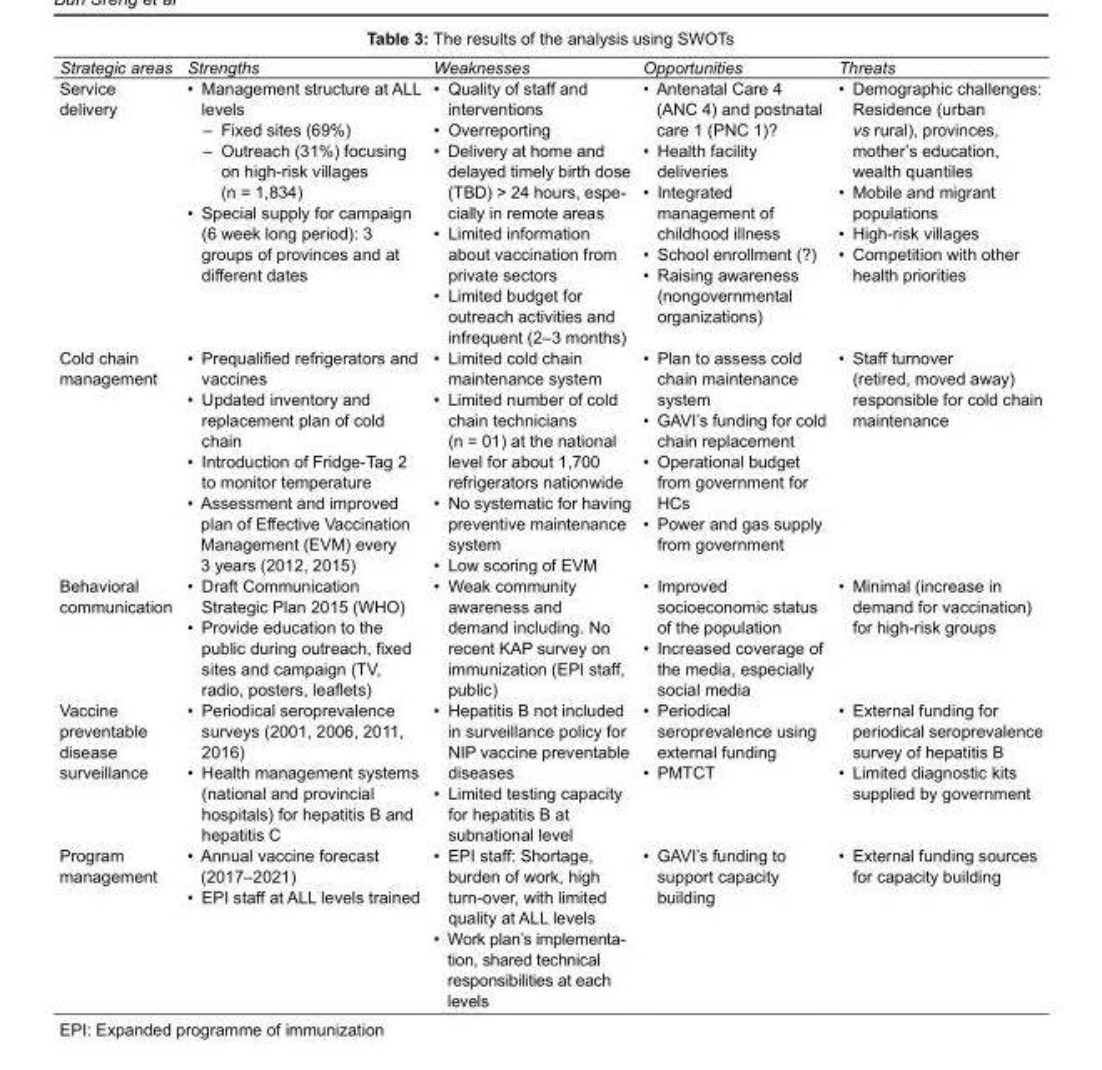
<table><tbody><tr><td>Strategic areas</td><td>Strengths</td><td>Weaknesses</td><td>Opportunities</td><td>Threats</td></tr><tr><td>Service delivery</td><td>• Management structure at ALL levels – Fixed sites (69%) – Outreach (31%) focusing on high-risk villages (n = 1,834) • Special supply for campaign (6 week long period): 3 groups of provinces and at different dates</td><td>• Quality of staff and interventions • Overreporting • Delivery at home and delayed timely birth dose (TBD) &gt; 24 hours, espe- cially in remote areas • Limited information about vaccination from private sectors • Limited budget for outreach activities and infrequent (2–3 months)</td><td>• Antenatal Care 4 (ANC 4) and postnatal care 1 (PNC 1)? • Health facility deliveries • Integrated management of childhood illness • School enrollment (?) • Raising awareness (nongovernmental organizations)</td><td>• Demographic challenges: Residence (urban vs rural), provinces, mother’s education, wealth quantiles • Mobile and migrant populations • High-risk villages • Competition with other health priorities</td></tr><tr><td>Cold chain management</td><td>• Prequalified refrigerators and vaccines • Updated inventory and replacement plan of cold chain • Introduction of Fridge-Tag 2 to monitor temperature • Assessment and improved plan of Effective Vaccination Management (EVM) every 3 years (2012, 2015)</td><td>• Limited cold chain maintenance system • Limited number of cold chain technicians (n = 01) at the national level for about 1,700 refrigerators nationwide • No systematic for having preventive maintenance system • Low scoring of EVM</td><td>• Plan to assess cold chain maintenance system • GAVI’s funding for cold chain replacement • Operational budget from government for HCs • Power and gas supply from government</td><td>• Staff turnover (retired, moved away) responsible for cold chain maintenance</td></tr><tr><td>Behavioral communication</td><td>• Draft Communication Strategic Plan 2015 (WHO) • Provide education to the public during outreach, fixed sites and campaign (TV, radio, posters, leaflets)</td><td>• Weak community awareness and demand including. No recent KAP survey on immunization (EPI staff, public)</td><td>• Improved socioeconomic status of the population • Increased coverage of the media, especially social media</td><td>• Minimal (increase in demand for vaccination) for high-risk groups</td></tr><tr><td>Vaccine preventable disease surveillance</td><td>• Periodical seroprevalence surveys (2001, 2006, 2011, 2016) • Health management systems (national and provincial hospitals) for hepatitis B and hepatitis C</td><td>• Hepatitis B not included in surveillance policy for NIP vaccine preventable diseases • Limited testing capacity for hepatitis B at subnational level</td><td>• Periodical seroprevalence using external funding • PMTCT</td><td>• External funding for periodical seroprevalence survey of hepatitis B • Limited diagnostic kits supplied by government</td></tr><tr><td>Program management</td><td>• Annual vaccine forecast (2017–2021) • EPI staff at ALL levels trained</td><td>• EPI staff: Shortage, burden of work, high turn-over, with limited quality at ALL levels • Work plan’s implementa- tion, shared technical responsibilities at each levels</td><td>• GAVI’s funding to support capacity building</td><td>• External funding sources for capacity building</td></tr></tbody></table>